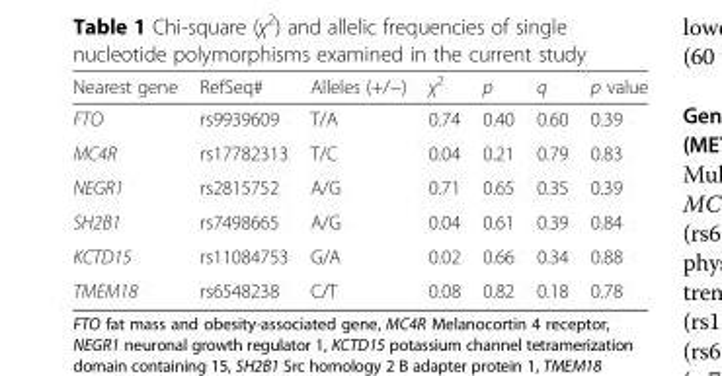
<table><thead><tr><td>Nearest gene</td><td>RefSeq#</td><td>Alleles (+/−)</td><td>χ<sup>2</sup></td><td>p</td><td>q</td><td>p value</td></tr></thead><tbody><tr><td>FTO</td><td>rs9939609</td><td>T/A</td><td>0.74</td><td>0.40</td><td>0.60</td><td>0.39</td></tr><tr><td>MC4R</td><td>rs17782313</td><td>T/C</td><td>0.04</td><td>0.21</td><td>0.79</td><td>0.83</td></tr><tr><td>NEGR1</td><td>rs2815752</td><td>A/G</td><td>0.71</td><td>0.65</td><td>0.35</td><td>0.39</td></tr><tr><td>SH2B1</td><td>rs7498665</td><td>A/G</td><td>0.04</td><td>0.61</td><td>0.39</td><td>0.84</td></tr><tr><td>KCTD15</td><td>rs11084753</td><td>G/A</td><td>0.02</td><td>0.66</td><td>0.34</td><td>0.88</td></tr><tr><td>TMEM18</td><td>rs6548238</td><td>C/T</td><td>0.08</td><td>0.82</td><td>0.18</td><td>0.78</td></tr></tbody></table>